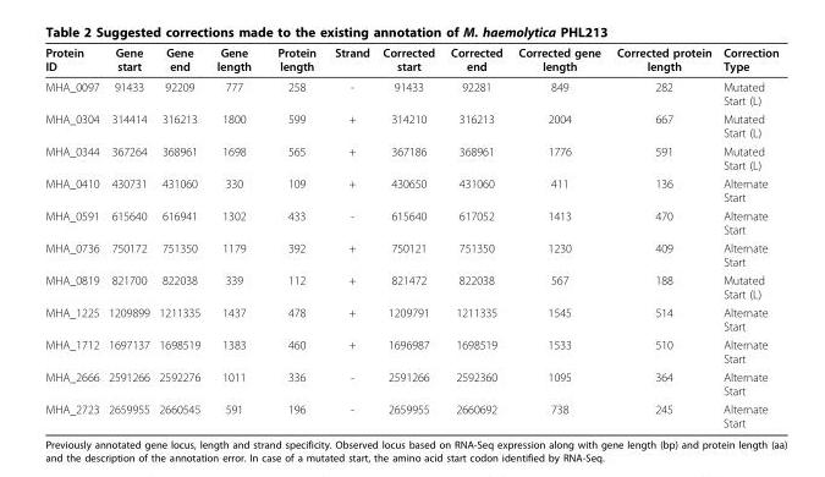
<table><thead><tr><td>Protein ID</td><td>Gene start</td><td>Gene end</td><td>Gene length</td><td>Protein length</td><td>Strand</td><td>Corrected start</td><td>Corrected end</td><td>Corrected gene length</td><td>Corrected protein length</td><td>Correction Type</td></tr></thead><tbody><tr><td>MHA_0097</td><td>91433</td><td>92209</td><td>777</td><td>258</td><td>-</td><td>91433</td><td>92281</td><td>849</td><td>282</td><td>Mutated Start (L)</td></tr><tr><td>MHA_0304</td><td>314414</td><td>316213</td><td>1800</td><td>599</td><td>+</td><td>314210</td><td>316213</td><td>2004</td><td>667</td><td>Mutated Start (L)</td></tr><tr><td>MHA_0344</td><td>367264</td><td>368961</td><td>1698</td><td>565</td><td>+</td><td>367186</td><td>368961</td><td>1776</td><td>591</td><td>Mutated Start (L)</td></tr><tr><td>MHA_0410</td><td>430731</td><td>431060</td><td>330</td><td>109</td><td>+</td><td>430650</td><td>431060</td><td>411</td><td>136</td><td>Alternate Start</td></tr><tr><td>MHA_0591</td><td>615640</td><td>616941</td><td>1302</td><td>433</td><td>-</td><td>615640</td><td>617052</td><td>1413</td><td>470</td><td>Alternate Start</td></tr><tr><td>MHA_0736</td><td>750172</td><td>751350</td><td>1179</td><td>392</td><td>+</td><td>750121</td><td>751350</td><td>1230</td><td>409</td><td>Alternate Start</td></tr><tr><td>MHA_0819</td><td>821700</td><td>822038</td><td>339</td><td>112</td><td>+</td><td>821472</td><td>822038</td><td>567</td><td>188</td><td>Mutated Start (L)</td></tr><tr><td>MHA_1225</td><td>1209899</td><td>1211335</td><td>1437</td><td>478</td><td>+</td><td>1209791</td><td>1211335</td><td>1545</td><td>514</td><td>Alternate Start</td></tr><tr><td>MHA_1712</td><td>1697137</td><td>1698519</td><td>1383</td><td>460</td><td>+</td><td>1696987</td><td>1698519</td><td>1533</td><td>510</td><td>Alternate Start</td></tr><tr><td>MHA_2666</td><td>2591266</td><td>2592276</td><td>1011</td><td>336</td><td>-</td><td>2591266</td><td>2592360</td><td>1095</td><td>364</td><td>Alternate Start</td></tr><tr><td>MHA_2723</td><td>2659955</td><td>2660545</td><td>591</td><td>196</td><td>-</td><td>2659955</td><td>2660692</td><td>738</td><td>245</td><td>Alternate Start</td></tr></tbody></table>